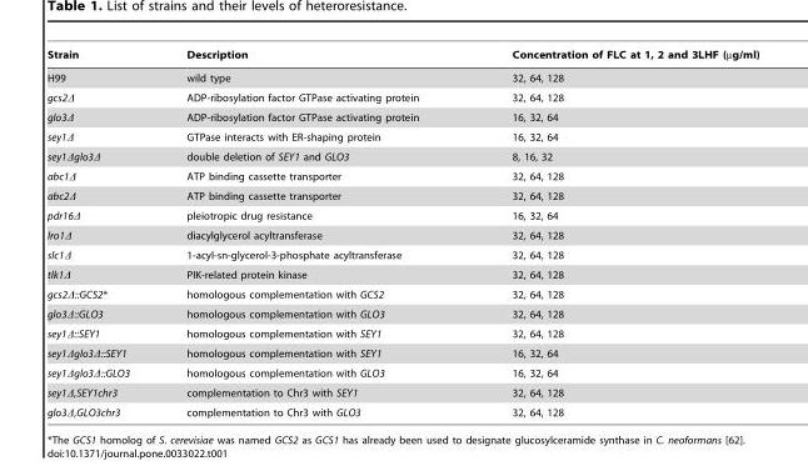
<table><thead><tr><td>Strain</td><td>Description</td><td>Concentration of FLC at 1, 2 and 3LHF (µg/ml)</td></tr></thead><tbody><tr><td>H99</td><td>wild type</td><td>32, 64, 128</td></tr><tr><td>gcs2Δ</td><td>ADP-ribosylation factor GTPase activating protein</td><td>32, 64, 128</td></tr><tr><td>glo3Δ</td><td>ADP-ribosylation factor GTPase activating protein</td><td>16, 32, 64</td></tr><tr><td>sey1Δ</td><td>GTPase interacts with ER-shaping protein</td><td>16, 32, 64</td></tr><tr><td>sey1Δglo3Δ</td><td>double deletion of SEY1 and GLO3</td><td>8, 16, 32</td></tr><tr><td>abc1Δ</td><td>ATP binding cassette transporter</td><td>32, 64, 128</td></tr><tr><td>abc2Δ</td><td>ATP binding cassette transporter</td><td>32, 64, 128</td></tr><tr><td>pdr16Δ</td><td>pleiotropic drug resistance</td><td>16, 32, 64</td></tr><tr><td>lro1Δ</td><td>diacylglycerol acyltransferase</td><td>32, 64, 128</td></tr><tr><td>slc1Δ</td><td>1-acyl-sn-glycerol-3-phosphate acyltransferase</td><td>32, 64, 128</td></tr><tr><td>tlk1Δ</td><td>PIK-related protein kinase</td><td>32, 64, 128</td></tr><tr><td>gcs2Δ::GCS2*</td><td>homologous complementation with GCS2</td><td>32, 64, 128</td></tr><tr><td>glo3Δ::GLO3</td><td>homologous complementation with GLO3</td><td>32, 64, 128</td></tr><tr><td>sey1Δ::SEY1</td><td>homologous complementation with SEY1</td><td>32, 64, 128</td></tr><tr><td>sey1Δglo3Δ::SEY1</td><td>homologous complementation with SEY1</td><td>16, 32, 64</td></tr><tr><td>sey1Δglo3Δ::GLO3</td><td>homologous complementation with GLO3</td><td>16, 32, 64</td></tr><tr><td>sey1Δ,SEY1chr3</td><td>complementation to Chr3 with SEY1</td><td>32, 64, 128</td></tr><tr><td>glo3Δ,GLO3chr3</td><td>complementation to Chr3 with GLO3</td><td>32, 64, 128</td></tr></tbody></table>